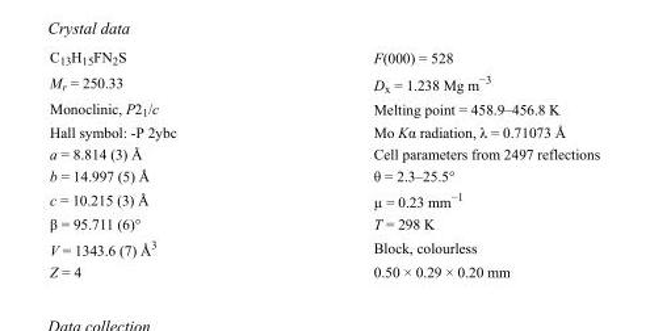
<table><tbody><tr><td>C<sub>13</sub>H<sub>15</sub>FN<sub>2</sub>S</td><td>F(000) = 528</td></tr><tr><td>M<sub>r</sub> = 250.33</td><td>D<sub>x</sub> = 1.238 Mg m<sup>−3</sup></td></tr><tr><td>Monoclinic, P2<sub>1</sub>/c</td><td>Melting point = 458.9–456.8 K</td></tr><tr><td>Hall symbol: -P 2ybc</td><td>Mo Kα radiation, λ = 0.71073 Å</td></tr><tr><td>a = 8.814 (3) Å</td><td>Cell parameters from 2497 reflections</td></tr><tr><td>b = 14.997 (5) Å</td><td>θ = 2.3–25.5°</td></tr><tr><td>c = 10.215 (3) Å</td><td>µ = 0.23 mm<sup>−1</sup></td></tr><tr><td>β = 95.711 (6)°</td><td>T = 298 K</td></tr><tr><td>V = 1343.6 (7) Å<sup>3</sup></td><td>Block, colourless</td></tr><tr><td>Z = 4</td><td>0.50 × 0.29 × 0.20 mm</td></tr></tbody></table>